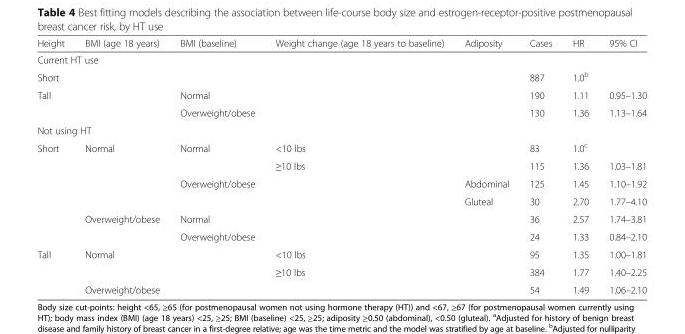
<table><thead><tr><td>Height</td><td>BMI (age 18 years)</td><td>BMI (baseline)</td><td>Weight change (age 18 years to baseline)</td><td>Adiposity</td><td>Cases</td><td>HR</td><td>95% CI</td></tr></thead><tbody><tr><td colspan="8">Current HT use</td></tr><tr><td>Short</td><td></td><td></td><td></td><td></td><td>887</td><td>1.0<sup>b</sup></td><td></td></tr><tr><td rowspan="2">Tall</td><td></td><td>Normal</td><td></td><td></td><td>190</td><td>1.11</td><td>0.95–1.30</td></tr><tr><td></td><td>Overweight/obese</td><td></td><td></td><td>130</td><td>1.36</td><td>1.13–1.64</td></tr><tr><td colspan="8">Not using HT</td></tr><tr><td rowspan="6">Short</td><td rowspan="4">Normal</td><td rowspan="2">Normal</td><td>&lt;10 lbs</td><td></td><td>83</td><td>1.0<sup>c</sup></td><td></td></tr><tr><td>≥10 lbs</td><td></td><td>115</td><td>1.36</td><td>1.03–1.81</td></tr><tr><td rowspan="2">Overweight/obese</td><td></td><td>Abdominal</td><td>125</td><td>1.45</td><td>1.10–1.92</td></tr><tr><td></td><td>Gluteal</td><td>30</td><td>2.70</td><td>1.77–4.10</td></tr><tr><td rowspan="2">Overweight/obese</td><td>Normal</td><td></td><td></td><td>36</td><td>2.57</td><td>1.74–3.81</td></tr><tr><td>Overweight/obese</td><td></td><td></td><td>24</td><td>1.33</td><td>0.84–2.10</td></tr><tr><td rowspan="3">Tall</td><td rowspan="2">Normal</td><td rowspan="2"></td><td>&lt;10 lbs</td><td></td><td>95</td><td>1.35</td><td>1.00–1.81</td></tr><tr><td>≥10 lbs</td><td></td><td>384</td><td>1.77</td><td>1.40–2.25</td></tr><tr><td>Overweight/obese</td><td></td><td></td><td></td><td>54</td><td>1.49</td><td>1.06–2.10</td></tr></tbody></table>